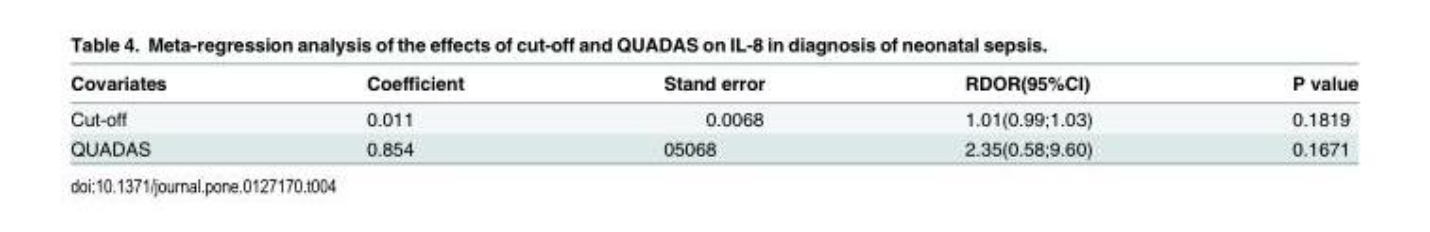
<table><thead><tr><td>Covariates</td><td>Coefficient</td><td>Stand error</td><td>RDOR(95%CI)</td><td>P value</td></tr></thead><tbody><tr><td>Cut-off</td><td>0.011</td><td>0.0068</td><td>1.01(0.99;1.03)</td><td>0.1819</td></tr><tr><td>QUADAS</td><td>0.854</td><td>05068</td><td>2.35(0.58;9.60)</td><td>0.1671</td></tr></tbody></table>